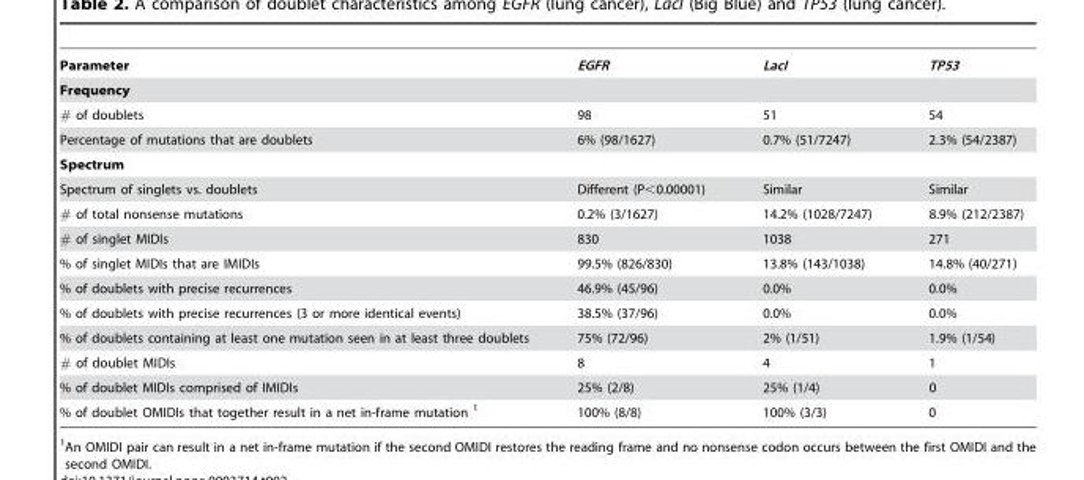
<table><thead><tr><td>Parameter</td><td>EGFR</td><td>LacI</td><td>TP53</td></tr></thead><tbody><tr><td colspan="4">Frequency</td></tr><tr><td># of doublets</td><td>98</td><td>51</td><td>54</td></tr><tr><td>Percentage of mutations that are doublets</td><td>6% (98/1627)</td><td>0.7% (51/7247)</td><td>2.3% (54/2387)</td></tr><tr><td colspan="4">Spectrum</td></tr><tr><td>Spectrum of singlets vs. doublets</td><td>Different (P&lt;0.00001)</td><td>Similar</td><td>Similar</td></tr><tr><td># of total nonsense mutations</td><td>0.2% (3/1627)</td><td>14.2% (1028/7247)</td><td>8.9% (212/2387)</td></tr><tr><td># of singlet MIDIs</td><td>830</td><td>1038</td><td>271</td></tr><tr><td>% of singlet MIDIs that are IMIDIs</td><td>99.5% (826/830)</td><td>13.8% (143/1038)</td><td>14.8% (40/271)</td></tr><tr><td>% of doublets with precise recurrences</td><td>46.9% (45/96)</td><td>0.0%</td><td>0.0%</td></tr><tr><td>% of doublets with precise recurrences (3 or more identical events)</td><td>38.5% (37/96)</td><td>0.0%</td><td>0.0%</td></tr><tr><td>% of doublets containing at least one mutation seen in at least three doublets</td><td>75% (72/96)</td><td>2% (1/51)</td><td>1.9% (1/54)</td></tr><tr><td># of doublet MIDIs</td><td>8</td><td>4</td><td>1</td></tr><tr><td>% of doublet MIDIs comprised of IMIDIs</td><td>25% (2/8)</td><td>25% (1/4)</td><td>0</td></tr><tr><td>% of doublet OMIDIs that together result in a net in-frame mutation 1</td><td>100% (8/8)</td><td>100% (3/3)</td><td>0</td></tr></tbody></table>